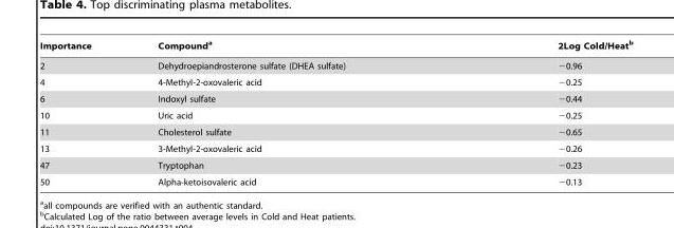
<table><thead><tr><td>Importance</td><td>Compound<sup>a</sup></td><td>2Log Cold/Heat<sup>b</sup></td></tr></thead><tbody><tr><td>2</td><td>Dehydroepiandrosterone sulfate (DHEA sulfate)</td><td>−0.96</td></tr><tr><td>4</td><td>4-Methyl-2-oxovaleric acid</td><td>−0.25</td></tr><tr><td>6</td><td>Indoxyl sulfate</td><td>−0.44</td></tr><tr><td>10</td><td>Uric acid</td><td>−0.25</td></tr><tr><td>11</td><td>Cholesterol sulfate</td><td>−0.65</td></tr><tr><td>13</td><td>3-Methyl-2-oxovaleric acid</td><td>−0.26</td></tr><tr><td>47</td><td>Tryptophan</td><td>−0.23</td></tr><tr><td>50</td><td>Alpha-ketoisovaleric acid</td><td>−0.13</td></tr></tbody></table>